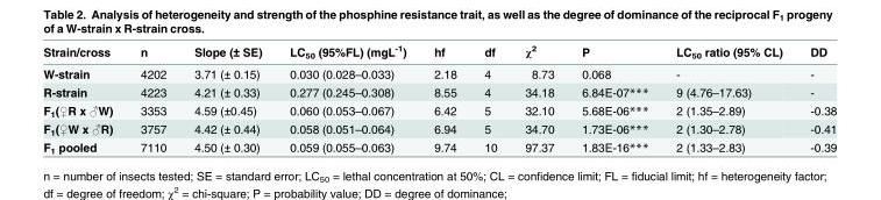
<table><thead><tr><td>Strain/cross</td><td>n</td><td>Slope (± SE)</td><td>LC<sub>50</sub> (95%FL) (mgL<sup>-1</sup>)</td><td>hf</td><td>df</td><td>χ<sup>2</sup></td><td>P</td><td>LC<sub>50</sub> ratio (95% CL)</td><td>DD</td></tr></thead><tbody><tr><td>W-strain</td><td>4202</td><td>3.71 (± 0.15)</td><td>0.030 (0.028–0.033)</td><td>2.18</td><td>4</td><td>8.73</td><td>0.068</td><td>-</td><td>-</td></tr><tr><td>R-strain</td><td>4223</td><td>4.21 (± 0.33)</td><td>0.277 (0.245–0.308)</td><td>8.55</td><td>4</td><td>34.18</td><td>6.84E-07***</td><td>9 (4.76–17.63)</td><td>-</td></tr><tr><td>F<sub>1</sub>(♀R x ♂W)</td><td>3353</td><td>4.59 (±0.45)</td><td>0.060 (0.053–0.067)</td><td>6.42</td><td>5</td><td>32.10</td><td>5.68E-06***</td><td>2 (1.35–2.89)</td><td>-0.38</td></tr><tr><td>F<sub>1</sub>(♀W x ♂R)</td><td>3757</td><td>4.42 (± 0.44)</td><td>0.058 (0.051–0.064)</td><td>6.94</td><td>5</td><td>34.70</td><td>1.73E-06***</td><td>2 (1.30–2.78)</td><td>-0.41</td></tr><tr><td>F<sub>1</sub> pooled</td><td>7110</td><td>4.50 (± 0.30)</td><td>0.059 (0.055–0.063)</td><td>9.74</td><td>10</td><td>97.37</td><td>1.83E-16***</td><td>2 (1.33–2.83)</td><td>-0.39</td></tr></tbody></table>